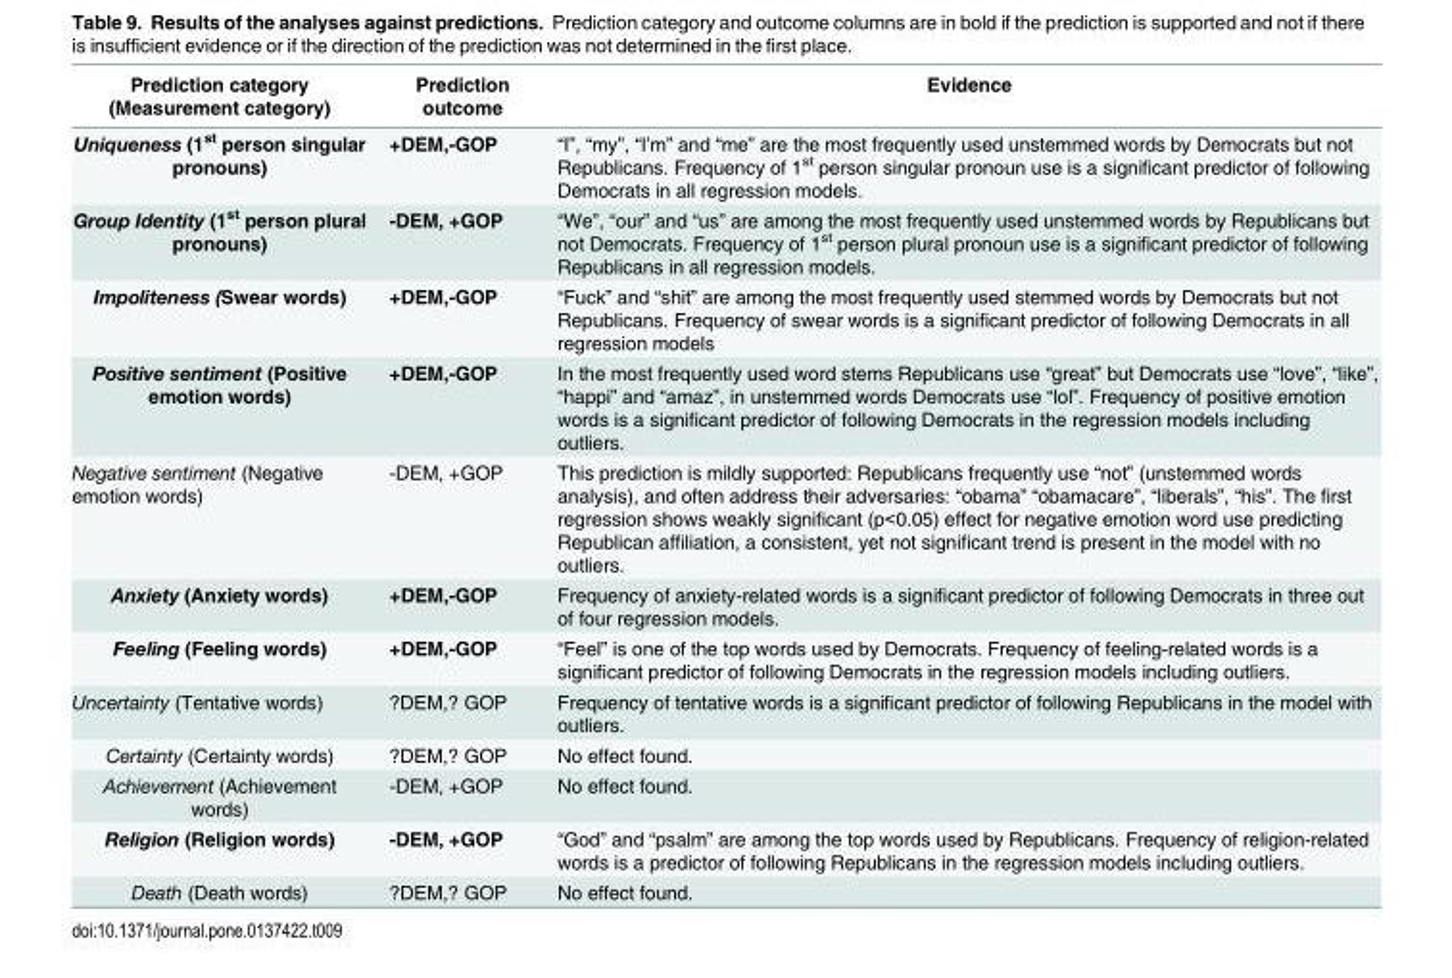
<table><thead><tr><td>Prediction category (Measurement category)</td><td>Prediction outcome</td><td>Evidence</td></tr></thead><tbody><tr><td>Uniqueness (1<sup>st</sup> person singular pronouns)</td><td>+DEM,-GOP</td><td>“I”, “my”, “I’m” and “me” are the most frequently used unstemmed words by Democrats but not Republicans. Frequency of 1<sup>st</sup> person singular pronoun use is a significant predictor of following Democrats in all regression models.</td></tr><tr><td>Group Identity (1<sup>st</sup> person plural pronouns)</td><td>-DEM, +GOP</td><td>“We”, “our” and “us” are among the most frequently used unstemmed words by Republicans but not Democrats. Frequency of 1<sup>st</sup> person plural pronoun use is a significant predictor of following Republicans in all regression models.</td></tr><tr><td>Impoliteness (Swear words)</td><td>+DEM,-GOP</td><td>“Fuck” and “shit” are among the most frequently used stemmed words by Democrats but not Republicans. Frequency of swear words is a significant predictor of following Democrats in all regression models</td></tr><tr><td>Positive sentiment (Positive emotion words)</td><td>+DEM,-GOP</td><td>In the most frequently used word stems Republicans use “great” but Democrats use “love”, “like”, “happi” and “amaz”, in unstemmed words Democrats use “lol”. Frequency of positive emotion words is a significant predictor of following Democrats in the regression models including outliers.</td></tr><tr><td>Negative sentiment (Negative emotion words)</td><td>-DEM, +GOP</td><td>This prediction is mildly supported: Republicans frequently use “not” (unstemmed words analysis), and often address their adversaries: “obama” “obamacare”, “liberals”, “his”. The first regression shows weakly significant (p&lt;0.05) effect for negative emotion word use predicting Republican affiliation, a consistent, yet not significant trend is present in the model with no outliers.</td></tr><tr><td>Anxiety (Anxiety words)</td><td>+DEM,-GOP</td><td>Frequency of anxiety-related words is a significant predictor of following Democrats in three out of four regression models.</td></tr><tr><td>Feeling (Feeling words)</td><td>+DEM,-GOP</td><td>“Feel” is one of the top words used by Democrats. Frequency of feeling-related words is a significant predictor of following Democrats in the regression models including outliers.</td></tr><tr><td>Uncertainty (Tentative words)</td><td>?DEM,? GOP</td><td>Frequency of tentative words is a significant predictor of following Republicans in the model with outliers.</td></tr><tr><td>Certainty (Certainty words)</td><td>?DEM,? GOP</td><td>No effect found.</td></tr><tr><td>Achievement (Achievement words)</td><td>-DEM, +GOP</td><td>No effect found.</td></tr><tr><td>Religion (Religion words)</td><td>-DEM, +GOP</td><td>“God” and “psalm” are among the top words used by Republicans. Frequency of religion-related words is a predictor of following Republicans in the regression models including outliers.</td></tr><tr><td>Death (Death words)</td><td>?DEM,? GOP</td><td>No effect found.</td></tr></tbody></table>